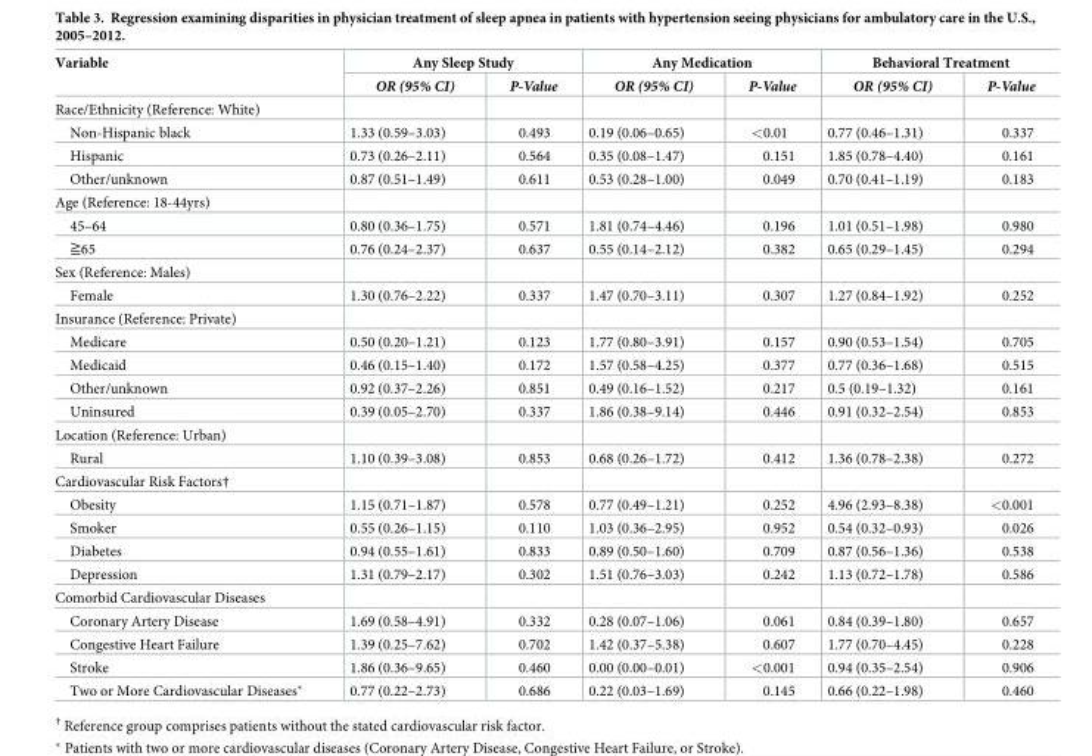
<table><thead><tr><td rowspan="2">Variable</td><td colspan="2">Any Sleep Study</td><td colspan="2">Any Medication</td><td colspan="2">Behavioral Treatment</td></tr><tr><td>OR (95% CI)</td><td>P-Value</td><td>OR (95% CI)</td><td>P-Value</td><td>OR (95% CI)</td><td>P-Value</td></tr></thead><tbody><tr><td colspan="7">Race/Ethnicity (Reference: White)</td></tr><tr><td>Non-Hispanic black</td><td>1.33 (0.59–3.03)</td><td>0.493</td><td>0.19 (0.06–0.65)</td><td>&lt;0.01</td><td>0.77 (0.46–1.31)</td><td>0.337</td></tr><tr><td>Hispanic</td><td>0.73 (0.26–2.11)</td><td>0.564</td><td>0.35 (0.08–1.47)</td><td>0.151</td><td>1.85 (0.78–4.40)</td><td>0.161</td></tr><tr><td>Other/unknown</td><td>0.87 (0.51–1.49)</td><td>0.611</td><td>0.53 (0.28–1.00)</td><td>0.049</td><td>0.70 (0.41–1.19)</td><td>0.183</td></tr><tr><td colspan="7">Age (Reference: 18-44yrs)</td></tr><tr><td>45–64</td><td>0.80 (0.36–1.75)</td><td>0.571</td><td>1.81 (0.74–4.46)</td><td>0.196</td><td>1.01 (0.51–1.98)</td><td>0.980</td></tr><tr><td>≧65</td><td>0.76 (0.24–2.37)</td><td>0.637</td><td>0.55 (0.14–2.12)</td><td>0.382</td><td>0.65 (0.29–1.45)</td><td>0.294</td></tr><tr><td colspan="7">Sex (Reference: Males)</td></tr><tr><td>Female</td><td>1.30 (0.76–2.22)</td><td>0.337</td><td>1.47 (0.70–3.11)</td><td>0.307</td><td>1.27 (0.84–1.92)</td><td>0.252</td></tr><tr><td colspan="7">Insurance (Reference: Private)</td></tr><tr><td>Medicare</td><td>0.50 (0.20–1.21)</td><td>0.123</td><td>1.77 (0.80–3.91)</td><td>0.157</td><td>0.90 (0.53–1.54)</td><td>0.705</td></tr><tr><td>Medicaid</td><td>0.46 (0.15–1.40)</td><td>0.172</td><td>1.57 (0.58–4.25)</td><td>0.377</td><td>0.77 (0.36–1.68)</td><td>0.515</td></tr><tr><td>Other/unknown</td><td>0.92 (0.37–2.26)</td><td>0.851</td><td>0.49 (0.16–1.52)</td><td>0.217</td><td>0.5 (0.19–1.32)</td><td>0.161</td></tr><tr><td>Uninsured</td><td>0.39 (0.05–2.70)</td><td>0.337</td><td>1.86 (0.38–9.14)</td><td>0.446</td><td>0.91 (0.32–2.54)</td><td>0.853</td></tr><tr><td colspan="7">Location (Reference: Urban)</td></tr><tr><td>Rural</td><td>1.10 (0.39–3.08)</td><td>0.853</td><td>0.68 (0.26–1.72)</td><td>0.412</td><td>1.36 (0.78–2.38)</td><td>0.272</td></tr><tr><td colspan="7">Cardiovascular Risk Factors†</td></tr><tr><td>Obesity</td><td>1.15 (0.71–1.87)</td><td>0.578</td><td>0.77 (0.49–1.21)</td><td>0.252</td><td>4.96 (2.93–8.38)</td><td>&lt;0.001</td></tr><tr><td>Smoker</td><td>0.55 (0.26–1.15)</td><td>0.110</td><td>1.03 (0.36–2.95)</td><td>0.952</td><td>0.54 (0.32–0.93)</td><td>0.026</td></tr><tr><td>Diabetes</td><td>0.94 (0.55–1.61)</td><td>0.833</td><td>0.89 (0.50–1.60)</td><td>0.709</td><td>0.87 (0.56–1.36)</td><td>0.538</td></tr><tr><td>Depression</td><td>1.31 (0.79–2.17)</td><td>0.302</td><td>1.51 (0.76–3.03)</td><td>0.242</td><td>1.13 (0.72–1.78)</td><td>0.586</td></tr><tr><td colspan="7">Comorbid Cardiovascular Diseases</td></tr><tr><td>Coronary Artery Disease</td><td>1.69 (0.58–4.91)</td><td>0.332</td><td>0.28 (0.07–1.06)</td><td>0.061</td><td>0.84 (0.39–1.80)</td><td>0.657</td></tr><tr><td>Congestive Heart Failure</td><td>1.39 (0.25–7.62)</td><td>0.702</td><td>1.42 (0.37–5.38)</td><td>0.607</td><td>1.77 (0.70–4.45)</td><td>0.228</td></tr><tr><td>Stroke</td><td>1.86 (0.36–9.65)</td><td>0.460</td><td>0.00 (0.00–0.01)</td><td>&lt;0.001</td><td>0.94 (0.35–2.54)</td><td>0.906</td></tr><tr><td>Two or More Cardiovascular Diseases*</td><td>0.77 (0.22–2.73)</td><td>0.686</td><td>0.22 (0.03–1.69)</td><td>0.145</td><td>0.66 (0.22–1.98)</td><td>0.460</td></tr></tbody></table>